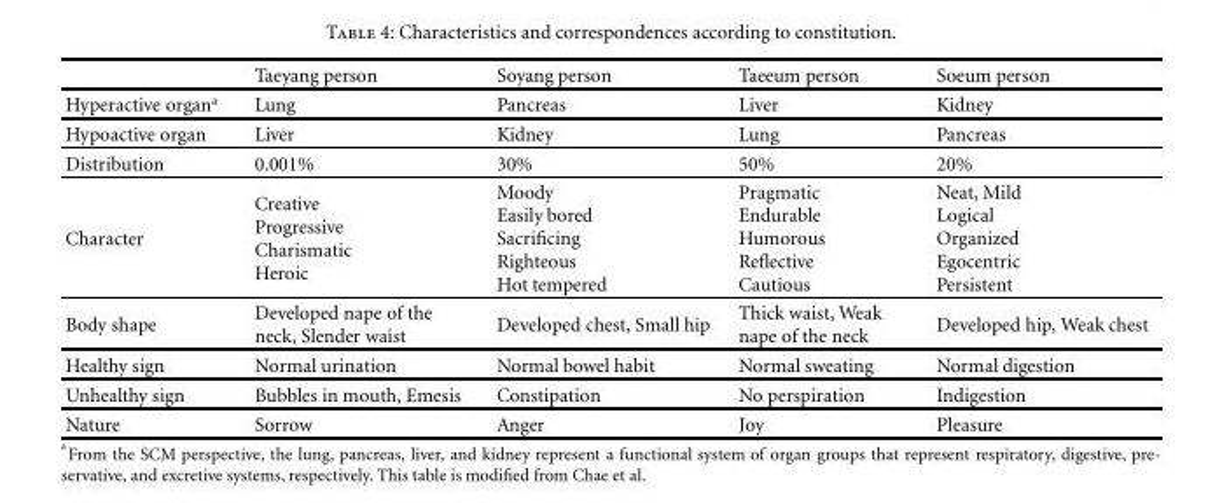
<table><thead><tr><td></td><td>Taeyang person</td><td>Soyang person</td><td>Taeeum person</td><td>Soeum person</td></tr></thead><tbody><tr><td>Hyperactive organ<sup>a</sup></td><td>Lung</td><td>Pancreas</td><td>Liver</td><td>Kidney</td></tr><tr><td>Hypoactive organ</td><td>Liver</td><td>Kidney</td><td>Lung</td><td>Pancreas</td></tr><tr><td>Distribution</td><td>0.001%</td><td>30%</td><td>50%</td><td>20%</td></tr><tr><td>Character</td><td>Creative Progressive Charismatic Heroic</td><td>Moody Easily bored Sacrificing Righteous Hot tempered</td><td>Pragmatic Endurable Humorous Reflective Cautious</td><td>Neat, Mild Logical Organized Egocentric Persistent</td></tr><tr><td>Body shape</td><td>Developed nape of the neck, Slender waist</td><td>Developed chest, Small hip</td><td>Thick waist, Weak nape of the neck</td><td>Developed hip, Weak chest</td></tr><tr><td>Healthy sign</td><td>Normal urination</td><td>Normal bowel habit</td><td>Normal sweating</td><td>Normal digestion</td></tr><tr><td>Unhealthy sign</td><td>Bubbles in mouth, Emesis</td><td>Constipation</td><td>No perspiration</td><td>Indigestion</td></tr><tr><td>Nature</td><td>Sorrow</td><td>Anger</td><td>Joy</td><td>Pleasure</td></tr></tbody></table>